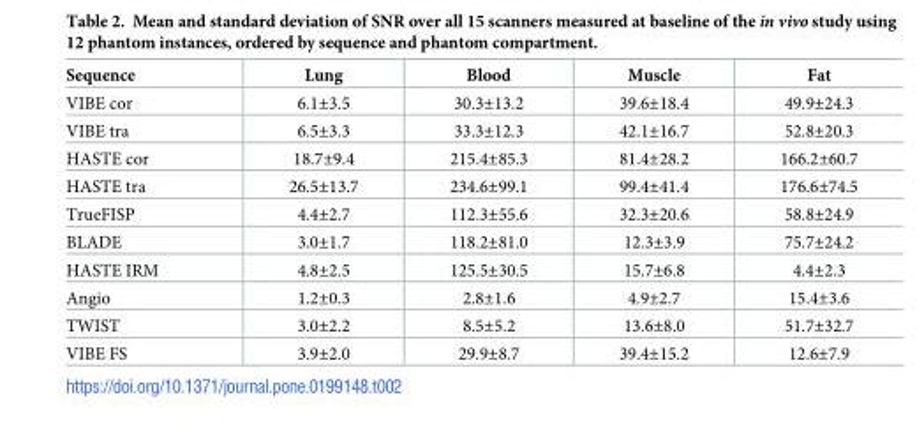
<table><thead><tr><td>Sequence</td><td>Lung</td><td>Blood</td><td>Muscle</td><td>Fat</td></tr></thead><tbody><tr><td>VIBE cor</td><td>6.1±3.5</td><td>30.3±13.2</td><td>39.6±18.4</td><td>49.9±24.3</td></tr><tr><td>VIBE tra</td><td>6.5±3.3</td><td>33.3±12.3</td><td>42.1±16.7</td><td>52.8±20.3</td></tr><tr><td>HASTE cor</td><td>18.7±9.4</td><td>215.4±85.3</td><td>81.4±28.2</td><td>166.2±60.7</td></tr><tr><td>HASTE tra</td><td>26.5±13.7</td><td>234.6±99.1</td><td>99.4±41.4</td><td>176.6±74.5</td></tr><tr><td>TrueFISP</td><td>4.4±2.7</td><td>112.3±55.6</td><td>32.3±20.6</td><td>58.8±24.9</td></tr><tr><td>BLADE</td><td>3.0±1.7</td><td>118.2±81.0</td><td>12.3±3.9</td><td>75.7±24.2</td></tr><tr><td>HASTE IRM</td><td>4.8±2.5</td><td>125.5±30.5</td><td>15.7±6.8</td><td>4.4±2.3</td></tr><tr><td>Angio</td><td>1.2±0.3</td><td>2.8±1.6</td><td>4.9±2.7</td><td>15.4±3.6</td></tr><tr><td>TWIST</td><td>3.0±2.2</td><td>8.5±5.2</td><td>13.6±8.0</td><td>51.7±32.7</td></tr><tr><td>VIBE FS</td><td>3.9±2.0</td><td>29.9±8.7</td><td>39.4±15.2</td><td>12.6±7.9</td></tr></tbody></table>